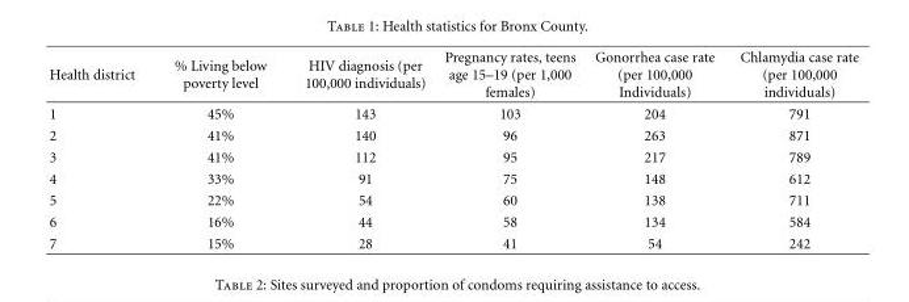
<table><thead><tr><td>Health district</td><td>% Living below poverty level</td><td>HIV diagnosis (per 100,000 individuals)</td><td>Pregnancy rates, teens age 15–19 (per 1,000 females)</td><td>Gonorrhea case rate (per 100,000 Individuals)</td><td>Chlamydia case rate (per 100,000 individuals)</td></tr></thead><tbody><tr><td>1</td><td>45%</td><td>143</td><td>103</td><td>204</td><td>791</td></tr><tr><td>2</td><td>41%</td><td>140</td><td>96</td><td>263</td><td>871</td></tr><tr><td>3</td><td>41%</td><td>112</td><td>95</td><td>217</td><td>789</td></tr><tr><td>4</td><td>33%</td><td>91</td><td>75</td><td>148</td><td>612</td></tr><tr><td>5</td><td>22%</td><td>54</td><td>60</td><td>138</td><td>711</td></tr><tr><td>6</td><td>16%</td><td>44</td><td>58</td><td>134</td><td>584</td></tr><tr><td>7</td><td>15%</td><td>28</td><td>41</td><td>54</td><td>242</td></tr></tbody></table>